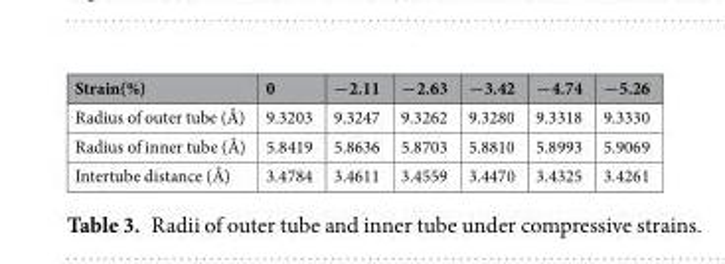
<table><thead><tr><td>Strain(%)</td><td>0</td><td>−2.11</td><td>−2.63</td><td>−3.42</td><td>−4.74</td><td>−5.26</td></tr></thead><tbody><tr><td>Radius of outer tube (Å)</td><td>9.3203</td><td>9.3247</td><td>9.3262</td><td>9.3280</td><td>9.3318</td><td>9.3330</td></tr><tr><td>Radius of inner tube (Å)</td><td>5.8419</td><td>5.8636</td><td>5.8703</td><td>5.8810</td><td>5.8993</td><td>5.9069</td></tr><tr><td>Intertube distance (Å)</td><td>3.4784</td><td>3.4611</td><td>3.4559</td><td>3.4470</td><td>3.4325</td><td>3.4261</td></tr></tbody></table>